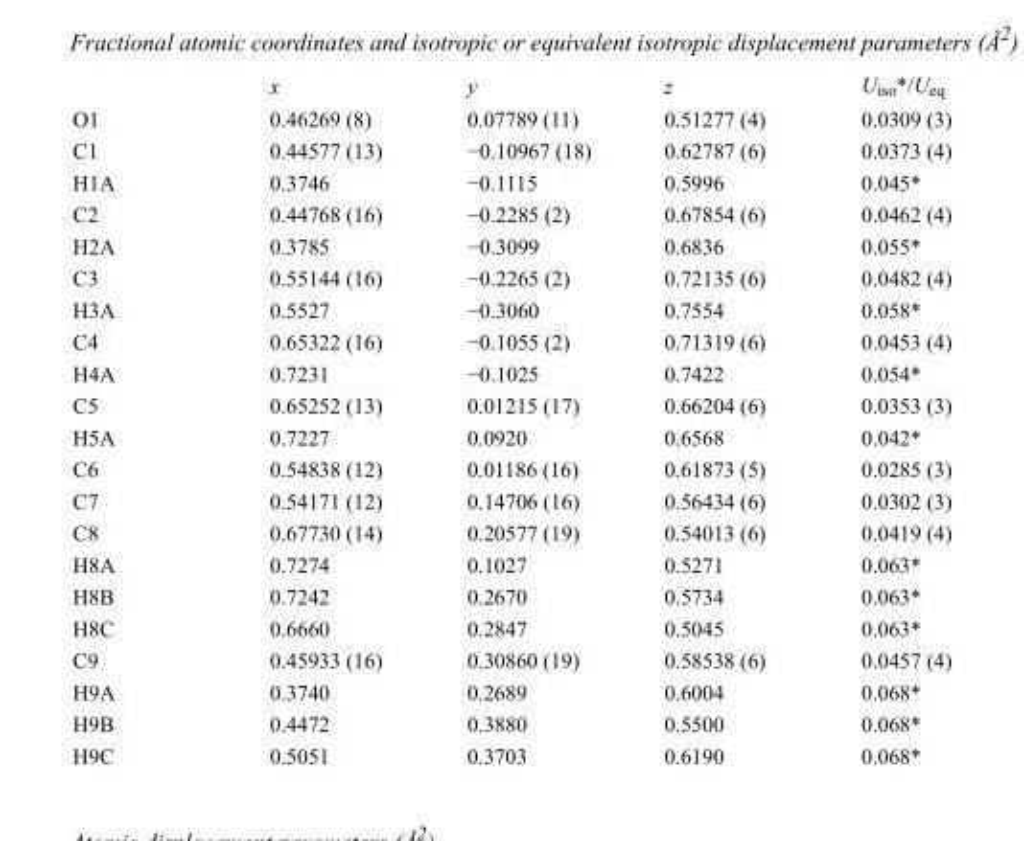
<table><thead><tr><td></td><td>x</td><td>y</td><td>z</td><td>U<sub>iso</sub>*/U<sub>eq</sub></td></tr></thead><tbody><tr><td>O1</td><td>0.46269 (8)</td><td>0.07789 (11)</td><td>0.51277 (4)</td><td>0.0309 (3)</td></tr><tr><td>C1</td><td>0.44577 (13)</td><td>−0.10967 (18)</td><td>0.62787 (6)</td><td>0.0373 (4)</td></tr><tr><td>H1A</td><td>0.3746</td><td>−0.1115</td><td>0.5996</td><td>0.045*</td></tr><tr><td>C2</td><td>0.44768 (16)</td><td>−0.2285 (2)</td><td>0.67854 (6)</td><td>0.0462 (4)</td></tr><tr><td>H2A</td><td>0.3785</td><td>−0.3099</td><td>0.6836</td><td>0.055*</td></tr><tr><td>C3</td><td>0.55144 (16)</td><td>−0.2265 (2)</td><td>0.72135 (6)</td><td>0.0482 (4)</td></tr><tr><td>H3A</td><td>0.5527</td><td>−0.3060</td><td>0.7554</td><td>0.058*</td></tr><tr><td>C4</td><td>0.65322 (16)</td><td>−0.1055 (2)</td><td>0.71319 (6)</td><td>0.0453 (4)</td></tr><tr><td>H4A</td><td>0.7231</td><td>−0.1025</td><td>0.7422</td><td>0.054*</td></tr><tr><td>C5</td><td>0.65252 (13)</td><td>0.01215 (17)</td><td>0.66204 (6)</td><td>0.0353 (3)</td></tr><tr><td>H5A</td><td>0.7227</td><td>0.0920</td><td>0.6568</td><td>0.042*</td></tr><tr><td>C6</td><td>0.54838 (12)</td><td>0.01186 (16)</td><td>0.61873 (5)</td><td>0.0285 (3)</td></tr><tr><td>C7</td><td>0.54171 (12)</td><td>0.14706 (16)</td><td>0.56434 (6)</td><td>0.0302 (3)</td></tr><tr><td>C8</td><td>0.67730 (14)</td><td>0.20577 (19)</td><td>0.54013 (6)</td><td>0.0419 (4)</td></tr><tr><td>H8A</td><td>0.7274</td><td>0.1027</td><td>0.5271</td><td>0.063*</td></tr><tr><td>H8B</td><td>0.7242</td><td>0.2670</td><td>0.5734</td><td>0.063*</td></tr><tr><td>H8C</td><td>0.6660</td><td>0.2847</td><td>0.5045</td><td>0.063*</td></tr><tr><td>C9</td><td>0.45933 (16)</td><td>0.30860 (19)</td><td>0.58538 (6)</td><td>0.0457 (4)</td></tr><tr><td>H9A</td><td>0.3740</td><td>0.2689</td><td>0.6004</td><td>0.068*</td></tr><tr><td>H9B</td><td>0.4472</td><td>0.3880</td><td>0.5500</td><td>0.068*</td></tr><tr><td>H9C</td><td>0.5051</td><td>0.3703</td><td>0.6190</td><td>0.068*</td></tr></tbody></table>